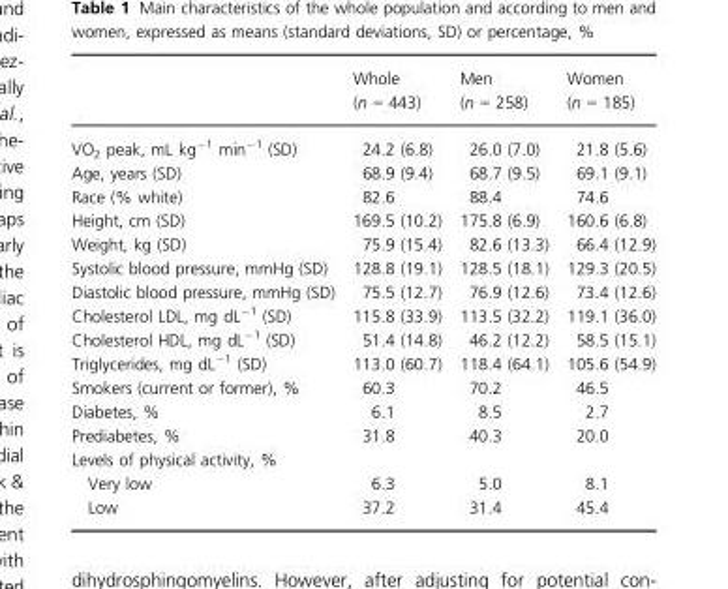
<table><thead><tr><td></td><td>Whole (n = 443)</td><td>Men (n = 258)</td><td>Women (n = 185)</td></tr></thead><tbody><tr><td>VO<sub>2</sub> peak, mL kg<sup>−1</sup> min<sup>−1</sup> (SD)</td><td>24.2 (6.8)</td><td>26.0 (7.0)</td><td>21.8 (5.6)</td></tr><tr><td>Age, years (SD)</td><td>68.9 (9.4)</td><td>68.7 (9.5)</td><td>69.1 (9.1)</td></tr><tr><td>Race (% white)</td><td>82.6</td><td>88.4</td><td>74.6</td></tr><tr><td>Height, cm (SD)</td><td>169.5 (10.2)</td><td>175.8 (6.9)</td><td>160.6 (6.8)</td></tr><tr><td>Weight, kg (SD)</td><td>75.9 (15.4)</td><td>82.6 (13.3)</td><td>66.4 (12.9)</td></tr><tr><td>Systolic blood pressure, mmHg (SD)</td><td>128.8 (19.1)</td><td>128.5 (18.1)</td><td>129.3 (20.5)</td></tr><tr><td>Diastolic blood pressure, mmHg (SD)</td><td>75.5 (12.7)</td><td>76.9 (12.6)</td><td>73.4 (12.6)</td></tr><tr><td>Cholesterol LDL, mg dL<sup>−1</sup> (SD)</td><td>115.8 (33.9)</td><td>113.5 (32.2)</td><td>119.1 (36.0)</td></tr><tr><td>Cholesterol HDL, mg dL<sup>−1</sup> (SD)</td><td>51.4 (14.8)</td><td>46.2 (12.2)</td><td>58.5 (15.1)</td></tr><tr><td>Triglycerides, mg dL<sup>−1</sup> (SD)</td><td>113.0 (60.7)</td><td>118.4 (64.1)</td><td>105.6 (54.9)</td></tr><tr><td>Smokers (current or former), %</td><td>60.3</td><td>70.2</td><td>46.5</td></tr><tr><td>Diabetes, %</td><td>6.1</td><td>8.5</td><td>2.7</td></tr><tr><td>Prediabetes, %</td><td>31.8</td><td>40.3</td><td>20.0</td></tr><tr><td colspan="4">Levels of physical activity, %</td></tr><tr><td>Very low</td><td>6.3</td><td>5.0</td><td>8.1</td></tr><tr><td>Low</td><td>37.2</td><td>31.4</td><td>45.4</td></tr></tbody></table>